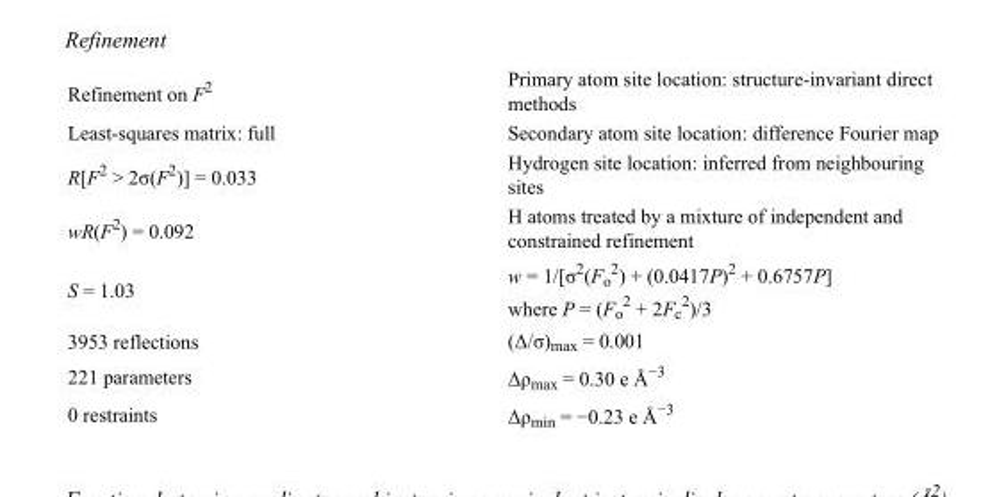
<table><tbody><tr><td>Refinement on F<sup>2</sup></td><td>Primary atom site location: structure-invariant direct methods</td></tr><tr><td>Least-squares matrix: full</td><td>Secondary atom site location: difference Fourier map</td></tr><tr><td>R[F<sup>2</sup> &gt; 2σ(F<sup>2</sup>)] = 0.033</td><td>Hydrogen site location: inferred from neighbouring sites</td></tr><tr><td>wR(F<sup>2</sup>) = 0.092</td><td>H atoms treated by a mixture of independent and constrained refinement</td></tr><tr><td>S = 1.03</td><td>w = 1/[σ<sup>2</sup>(F<sub>o</sub> <sup>2</sup>) + (0.0417P)<sup>2</sup> + 0.6757P] where P = (F<sub>o</sub> <sup>2</sup> + 2F<sub>c</sub> <sup>2</sup>)/3</td></tr><tr><td>3953 reflections</td><td>(Δ/σ)<sub>max</sub> = 0.001</td></tr><tr><td>221 parameters</td><td>Δρ<sub>max</sub> = 0.30 e Å<sup>−3</sup></td></tr><tr><td>0 restraints</td><td>Δρ<sub>min</sub> = −0.23 e Å<sup>−3</sup></td></tr></tbody></table>